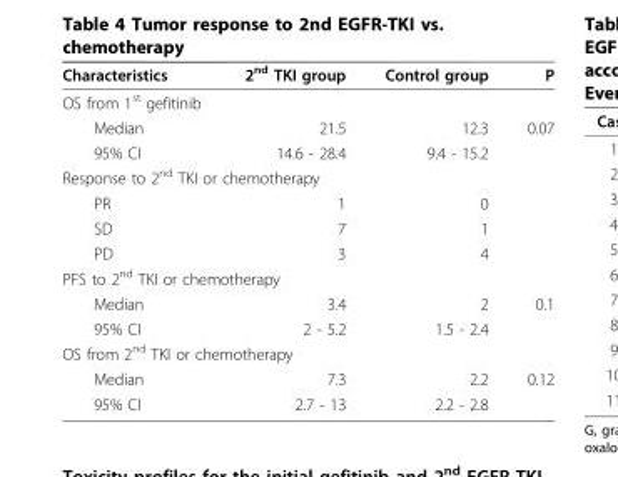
<table><thead><tr><td>Characteristics</td><td>2<sup>nd</sup> TKI group</td><td>Control group</td><td>P</td></tr></thead><tbody><tr><td colspan="4">OS from 1<sup>st</sup> gefitinib</td></tr><tr><td>Median</td><td>21.5</td><td>12.3</td><td>0.07</td></tr><tr><td>95% CI</td><td>14.6 - 28.4</td><td>9.4 - 15.2</td><td></td></tr><tr><td colspan="4">Response to 2<sup>nd</sup> TKI or chemotherapy</td></tr><tr><td>PR</td><td>1</td><td>0</td><td></td></tr><tr><td>SD</td><td>7</td><td>1</td><td></td></tr><tr><td>PD</td><td>3</td><td>4</td><td></td></tr><tr><td colspan="4">PFS to 2<sup>nd</sup> TKI or chemotherapy</td></tr><tr><td>Median</td><td>3.4</td><td>2</td><td>0.1</td></tr><tr><td>95% CI</td><td>2 - 5.2</td><td>1.5 - 2.4</td><td></td></tr><tr><td colspan="4">OS from 2<sup>nd</sup> TKI or chemotherapy</td></tr><tr><td>Median</td><td>7.3</td><td>2.2</td><td>0.12</td></tr><tr><td>95% CI</td><td>2.7 - 13</td><td>2.2 - 2.8</td><td></td></tr></tbody></table>